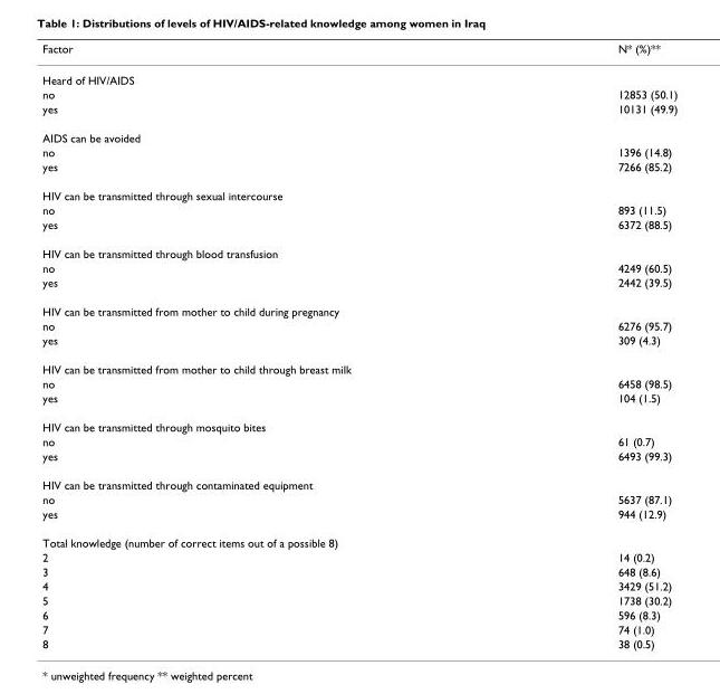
<table><thead><tr><td>Factor</td><td>N* (%)**</td></tr></thead><tbody><tr><td colspan="2">Heard of HIV/AIDS</td></tr><tr><td>no</td><td>12853 (50.1)</td></tr><tr><td>yes</td><td>10131 (49.9)</td></tr><tr><td colspan="2">AIDS can be avoided</td></tr><tr><td>no</td><td>1396 (14.8)</td></tr><tr><td>yes</td><td>7266 (85.2)</td></tr><tr><td colspan="2">HIV can be transmitted through sexual intercourse</td></tr><tr><td>no</td><td>893 (11.5)</td></tr><tr><td>yes</td><td>6372 (88.5)</td></tr><tr><td colspan="2">HIV can be transmitted through blood transfusion</td></tr><tr><td>no</td><td>4249 (60.5)</td></tr><tr><td>yes</td><td>2442 (39.5)</td></tr><tr><td colspan="2">HIV can be transmitted from mother to child during pregnancy</td></tr><tr><td>no</td><td>6276 (95.7)</td></tr><tr><td>yes</td><td>309 (4.3)</td></tr><tr><td colspan="2">HIV can be transmitted from mother to child through breast milk</td></tr><tr><td>no</td><td>6458 (98.5)</td></tr><tr><td>yes</td><td>104 (1.5)</td></tr><tr><td colspan="2">HIV can be transmitted through mosquito bites</td></tr><tr><td>no</td><td>61 (0.7)</td></tr><tr><td>yes</td><td>6493 (99.3)</td></tr><tr><td colspan="2">HIV can be transmitted through contaminated equipment</td></tr><tr><td>no</td><td>5637 (87.1)</td></tr><tr><td>yes</td><td>944 (12.9)</td></tr><tr><td colspan="2">Total knowledge (number of correct items out of a possible 8)</td></tr><tr><td>2</td><td>14 (0.2)</td></tr><tr><td>3</td><td>648 (8.6)</td></tr><tr><td>4</td><td>3429 (51.2)</td></tr><tr><td>5</td><td>1738 (30.2)</td></tr><tr><td>6</td><td>596 (8.3)</td></tr><tr><td>7</td><td>74 (1.0)</td></tr><tr><td>8</td><td>38 (0.5)</td></tr></tbody></table>